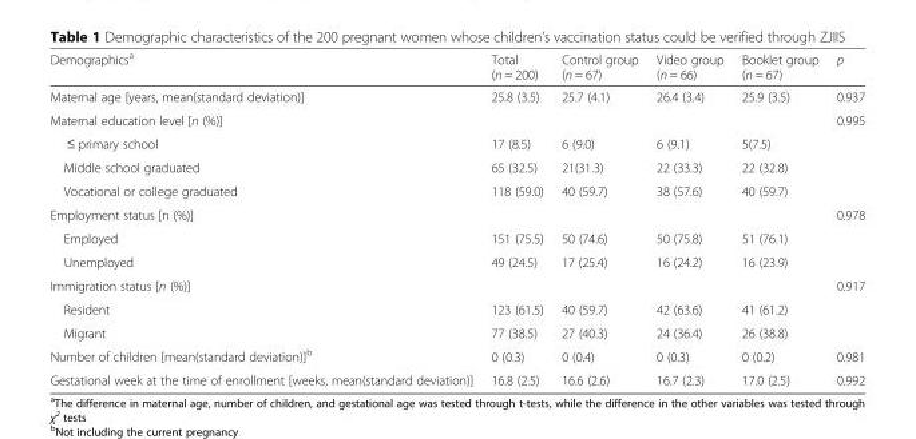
<table><thead><tr><td>Demographics<sup>a</sup></td><td>Total (n = 200)</td><td>Control group (n = 67)</td><td>Video group (n = 66)</td><td>Booklet group (n = 67)</td><td>p</td></tr></thead><tbody><tr><td>Maternal age [years, mean(standard deviation)]</td><td>25.8 (3.5)</td><td>25.7 (4.1)</td><td>26.4 (3.4)</td><td>25.9 (3.5)</td><td>0.937</td></tr><tr><td>Maternal education level [n (%)]</td><td></td><td></td><td></td><td></td><td>0.995</td></tr><tr><td>≤ primary school</td><td>17 (8.5)</td><td>6 (9.0)</td><td>6 (9.1)</td><td>5(7.5)</td><td></td></tr><tr><td>Middle school graduated</td><td>65 (32.5)</td><td>21(31.3)</td><td>22 (33.3)</td><td>22 (32.8)</td><td></td></tr><tr><td>Vocational or college graduated</td><td>118 (59.0)</td><td>40 (59.7)</td><td>38 (57.6)</td><td>40 (59.7)</td><td></td></tr><tr><td>Employment status [n (%)]</td><td></td><td></td><td></td><td></td><td>0.978</td></tr><tr><td>Employed</td><td>151 (75.5)</td><td>50 (74.6)</td><td>50 (75.8)</td><td>51 (76.1)</td><td></td></tr><tr><td>Unemployed</td><td>49 (24.5)</td><td>17 (25.4)</td><td>16 (24.2)</td><td>16 (23.9)</td><td></td></tr><tr><td>Immigration status [n (%)]</td><td></td><td></td><td></td><td></td><td>0.917</td></tr><tr><td>Resident</td><td>123 (61.5)</td><td>40 (59.7)</td><td>42 (63.6)</td><td>41 (61.2)</td><td></td></tr><tr><td>Migrant</td><td>77 (38.5)</td><td>27 (40.3)</td><td>24 (36.4)</td><td>26 (38.8)</td><td></td></tr><tr><td>Number of children [mean(standard deviation)]<sup>b</sup></td><td>0 (0.3)</td><td>0 (0.4)</td><td>0 (0.3)</td><td>0 (0.2)</td><td>0.981</td></tr><tr><td>Gestational week at the time of enrollment [weeks, mean(standard deviation)]</td><td>16.8 (2.5)</td><td>16.6 (2.6)</td><td>16.7 (2.3)</td><td>17.0 (2.5)</td><td>0.992</td></tr></tbody></table>